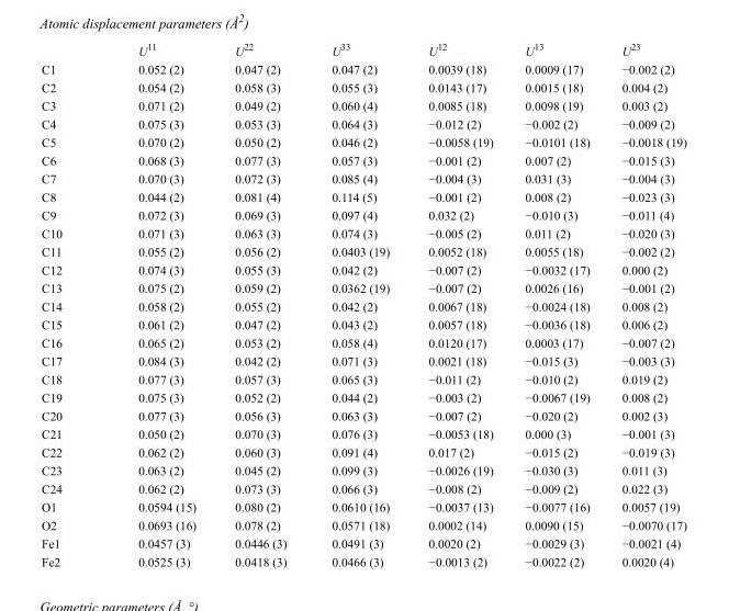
<table><thead><tr><td></td><td>U<sup>11</sup></td><td>U<sup>22</sup></td><td>U<sup>33</sup></td><td>U<sup>12</sup></td><td>U<sup>13</sup></td><td>U<sup>23</sup></td></tr></thead><tbody><tr><td>C1</td><td>0.052 (2)</td><td>0.047 (2)</td><td>0.047 (2)</td><td>0.0039 (18)</td><td>0.0009 (17)</td><td>−0.002 (2)</td></tr><tr><td>C2</td><td>0.054 (2)</td><td>0.058 (3)</td><td>0.055 (3)</td><td>0.0143 (17)</td><td>0.0015 (18)</td><td>0.004 (2)</td></tr><tr><td>C3</td><td>0.071 (2)</td><td>0.049 (2)</td><td>0.060 (4)</td><td>0.0085 (18)</td><td>0.0098 (19)</td><td>0.003 (2)</td></tr><tr><td>C4</td><td>0.075 (3)</td><td>0.053 (3)</td><td>0.064 (3)</td><td>−0.012 (2)</td><td>−0.002 (2)</td><td>−0.009 (2)</td></tr><tr><td>C5</td><td>0.070 (2)</td><td>0.050 (2)</td><td>0.046 (2)</td><td>−0.0058 (19)</td><td>−0.0101 (18)</td><td>−0.0018 (19)</td></tr><tr><td>C6</td><td>0.068 (3)</td><td>0.077 (3)</td><td>0.057 (3)</td><td>−0.001 (2)</td><td>0.007 (2)</td><td>−0.015 (3)</td></tr><tr><td>C7</td><td>0.070 (3)</td><td>0.072 (3)</td><td>0.085 (4)</td><td>−0.004 (3)</td><td>0.031 (3)</td><td>−0.004 (3)</td></tr><tr><td>C8</td><td>0.044 (2)</td><td>0.081 (4)</td><td>0.114 (5)</td><td>−0.001 (2)</td><td>0.008 (2)</td><td>−0.023 (3)</td></tr><tr><td>C9</td><td>0.072 (3)</td><td>0.069 (3)</td><td>0.097 (4)</td><td>0.032 (2)</td><td>−0.010 (3)</td><td>−0.011 (4)</td></tr><tr><td>C10</td><td>0.071 (3)</td><td>0.063 (3)</td><td>0.074 (3)</td><td>−0.005 (2)</td><td>0.011 (2)</td><td>−0.020 (3)</td></tr><tr><td>C11</td><td>0.055 (2)</td><td>0.056 (2)</td><td>0.0403 (19)</td><td>0.0052 (18)</td><td>0.0055 (18)</td><td>−0.002 (2)</td></tr><tr><td>C12</td><td>0.074 (3)</td><td>0.055 (3)</td><td>0.042 (2)</td><td>−0.007 (2)</td><td>−0.0032 (17)</td><td>0.000 (2)</td></tr><tr><td>C13</td><td>0.075 (2)</td><td>0.059 (2)</td><td>0.0362 (19)</td><td>−0.007 (2)</td><td>0.0026 (16)</td><td>−0.001 (2)</td></tr><tr><td>C14</td><td>0.058 (2)</td><td>0.055 (2)</td><td>0.042 (2)</td><td>0.0067 (18)</td><td>−0.0024 (18)</td><td>0.008 (2)</td></tr><tr><td>C15</td><td>0.061 (2)</td><td>0.047 (2)</td><td>0.043 (2)</td><td>0.0057 (18)</td><td>−0.0036 (18)</td><td>0.006 (2)</td></tr><tr><td>C16</td><td>0.065 (2)</td><td>0.053 (2)</td><td>0.058 (4)</td><td>0.0120 (17)</td><td>0.0003 (17)</td><td>−0.007 (2)</td></tr><tr><td>C17</td><td>0.084 (3)</td><td>0.042 (2)</td><td>0.071 (3)</td><td>0.0021 (18)</td><td>−0.015 (3)</td><td>−0.003 (3)</td></tr><tr><td>C18</td><td>0.077 (3)</td><td>0.057 (3)</td><td>0.065 (3)</td><td>−0.011 (2)</td><td>−0.010 (2)</td><td>0.019 (2)</td></tr><tr><td>C19</td><td>0.075 (3)</td><td>0.052 (2)</td><td>0.044 (2)</td><td>−0.003 (2)</td><td>−0.0067 (19)</td><td>0.008 (2)</td></tr><tr><td>C20</td><td>0.077 (3)</td><td>0.056 (3)</td><td>0.063 (3)</td><td>−0.007 (2)</td><td>−0.020 (2)</td><td>0.002 (3)</td></tr><tr><td>C21</td><td>0.050 (2)</td><td>0.070 (3)</td><td>0.076 (3)</td><td>−0.0053 (18)</td><td>0.000 (3)</td><td>−0.001 (3)</td></tr><tr><td>C22</td><td>0.062 (2)</td><td>0.060 (3)</td><td>0.091 (4)</td><td>0.017 (2)</td><td>−0.015 (2)</td><td>−0.019 (3)</td></tr><tr><td>C23</td><td>0.063 (2)</td><td>0.045 (2)</td><td>0.099 (3)</td><td>−0.0026 (19)</td><td>−0.030 (3)</td><td>0.011 (3)</td></tr><tr><td>C24</td><td>0.062 (2)</td><td>0.073 (3)</td><td>0.066 (3)</td><td>−0.008 (2)</td><td>−0.009 (2)</td><td>0.022 (3)</td></tr><tr><td>O1</td><td>0.0594 (15)</td><td>0.080 (2)</td><td>0.0610 (16)</td><td>−0.0037 (13)</td><td>−0.0077 (16)</td><td>0.0057 (19)</td></tr><tr><td>O2</td><td>0.0693 (16)</td><td>0.078 (2)</td><td>0.0571 (18)</td><td>0.0002 (14)</td><td>0.0090 (15)</td><td>−0.0070 (17)</td></tr><tr><td>Fe1</td><td>0.0457 (3)</td><td>0.0446 (3)</td><td>0.0491 (3)</td><td>0.0020 (2)</td><td>−0.0029 (3)</td><td>−0.0021 (4)</td></tr><tr><td>Fe2</td><td>0.0525 (3)</td><td>0.0418 (3)</td><td>0.0466 (3)</td><td>−0.0013 (2)</td><td>−0.0022 (2)</td><td>0.0020 (4)</td></tr></tbody></table>